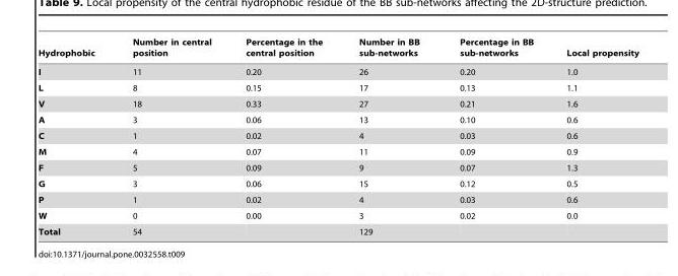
<table><thead><tr><td>Hydrophobic</td><td>Number in central position</td><td>Percentage in the central position</td><td>Number in BB sub-networks</td><td>Percentage in BB sub-networks</td><td>Local propensity</td></tr></thead><tbody><tr><td>I</td><td>11</td><td>0.20</td><td>26</td><td>0.20</td><td>1.0</td></tr><tr><td>L</td><td>8</td><td>0.15</td><td>17</td><td>0.13</td><td>1.1</td></tr><tr><td>V</td><td>18</td><td>0.33</td><td>27</td><td>0.21</td><td>1.6</td></tr><tr><td>A</td><td>3</td><td>0.06</td><td>13</td><td>0.10</td><td>0.6</td></tr><tr><td>C</td><td>1</td><td>0.02</td><td>4</td><td>0.03</td><td>0.6</td></tr><tr><td>M</td><td>4</td><td>0.07</td><td>11</td><td>0.09</td><td>0.9</td></tr><tr><td>F</td><td>5</td><td>0.09</td><td>9</td><td>0.07</td><td>1.3</td></tr><tr><td>G</td><td>3</td><td>0.06</td><td>15</td><td>0.12</td><td>0.5</td></tr><tr><td>P</td><td>1</td><td>0.02</td><td>4</td><td>0.03</td><td>0.6</td></tr><tr><td>W</td><td>0</td><td>0.00</td><td>3</td><td>0.02</td><td>0.0</td></tr><tr><td>Total</td><td>54</td><td></td><td>129</td><td></td><td></td></tr></tbody></table>